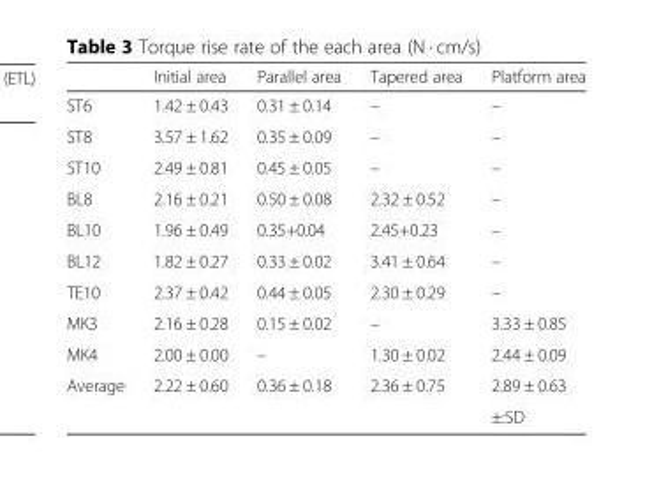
<table><thead><tr><td></td><td>Initial area</td><td>Parallel area</td><td>Tapered area</td><td>Platform area</td></tr></thead><tbody><tr><td>ST6</td><td>1.42 ± 0.43</td><td>0.31 ± 0.14</td><td>–</td><td>–</td></tr><tr><td>ST8</td><td>3.57 ± 1.62</td><td>0.35 ± 0.09</td><td>–</td><td>–</td></tr><tr><td>ST10</td><td>2.49 ± 0.81</td><td>0.45 ± 0.05</td><td>–</td><td>–</td></tr><tr><td>BL8</td><td>2.16 ± 0.21</td><td>0.50 ± 0.08</td><td>2.32 ± 0.52</td><td>–</td></tr><tr><td>BL10</td><td>1.96 ± 0.49</td><td>0.35+0.04</td><td>2.45+0.23</td><td>–</td></tr><tr><td>BL12</td><td>1.82 ± 0.27</td><td>0.33 ± 0.02</td><td>3.41 ± 0.64</td><td>–</td></tr><tr><td>TE10</td><td>2.37 ± 0.42</td><td>0.44 ± 0.05</td><td>2.30 ± 0.29</td><td>–</td></tr><tr><td>MK3</td><td>2.16 ± 0.28</td><td>0.15 ± 0.02</td><td>–</td><td>3.33 ± 0.85</td></tr><tr><td>MK4</td><td>2.00 ± 0.00</td><td>–</td><td>1.30 ± 0.02</td><td>2.44 ± 0.09</td></tr><tr><td>Average</td><td>2.22 ± 0.60</td><td>0.36 ± 0.18</td><td>2.36 ± 0.75</td><td>2.89 ± 0.63</td></tr><tr><td colspan="4"></td><td>±:SD</td></tr></tbody></table>